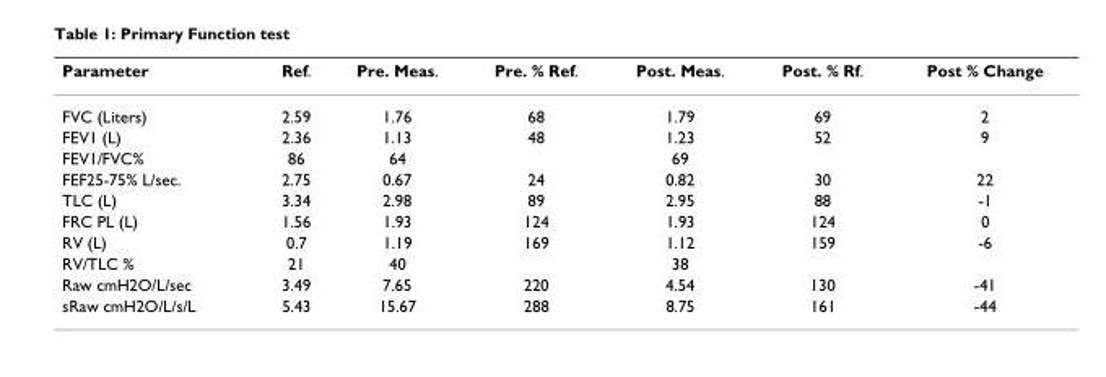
<table><thead><tr><td>Parameter</td><td>Ref.</td><td>Pre. Meas.</td><td>Pre. % Ref.</td><td>Post. Meas.</td><td>Post. % Rf.</td><td>Post % Change</td></tr></thead><tbody><tr><td>FVC (Liters)</td><td>2.59</td><td>1.76</td><td>68</td><td>1.79</td><td>69</td><td>2</td></tr><tr><td>FEV1 (L)</td><td>2.36</td><td>1.13</td><td>48</td><td>1.23</td><td>52</td><td>9</td></tr><tr><td>FEV1/FVC%</td><td>86</td><td>64</td><td></td><td>69</td><td></td><td></td></tr><tr><td>FEF25-75% L/sec.</td><td>2.75</td><td>0.67</td><td>24</td><td>0.82</td><td>30</td><td>22</td></tr><tr><td>TLC (L)</td><td>3.34</td><td>2.98</td><td>89</td><td>2.95</td><td>88</td><td>-1</td></tr><tr><td>FRC PL (L)</td><td>1.56</td><td>1.93</td><td>124</td><td>1.93</td><td>124</td><td>0</td></tr><tr><td>RV (L)</td><td>0.7</td><td>1.19</td><td>169</td><td>1.12</td><td>159</td><td>-6</td></tr><tr><td>RV/TLC %</td><td>21</td><td>40</td><td></td><td>38</td><td></td><td></td></tr><tr><td>Raw cmH2O/L/sec</td><td>3.49</td><td>7.65</td><td>220</td><td>4.54</td><td>130</td><td>-41</td></tr><tr><td>sRaw cmH2O/L/s/L</td><td>5.43</td><td>15.67</td><td>288</td><td>8.75</td><td>161</td><td>-44</td></tr></tbody></table>